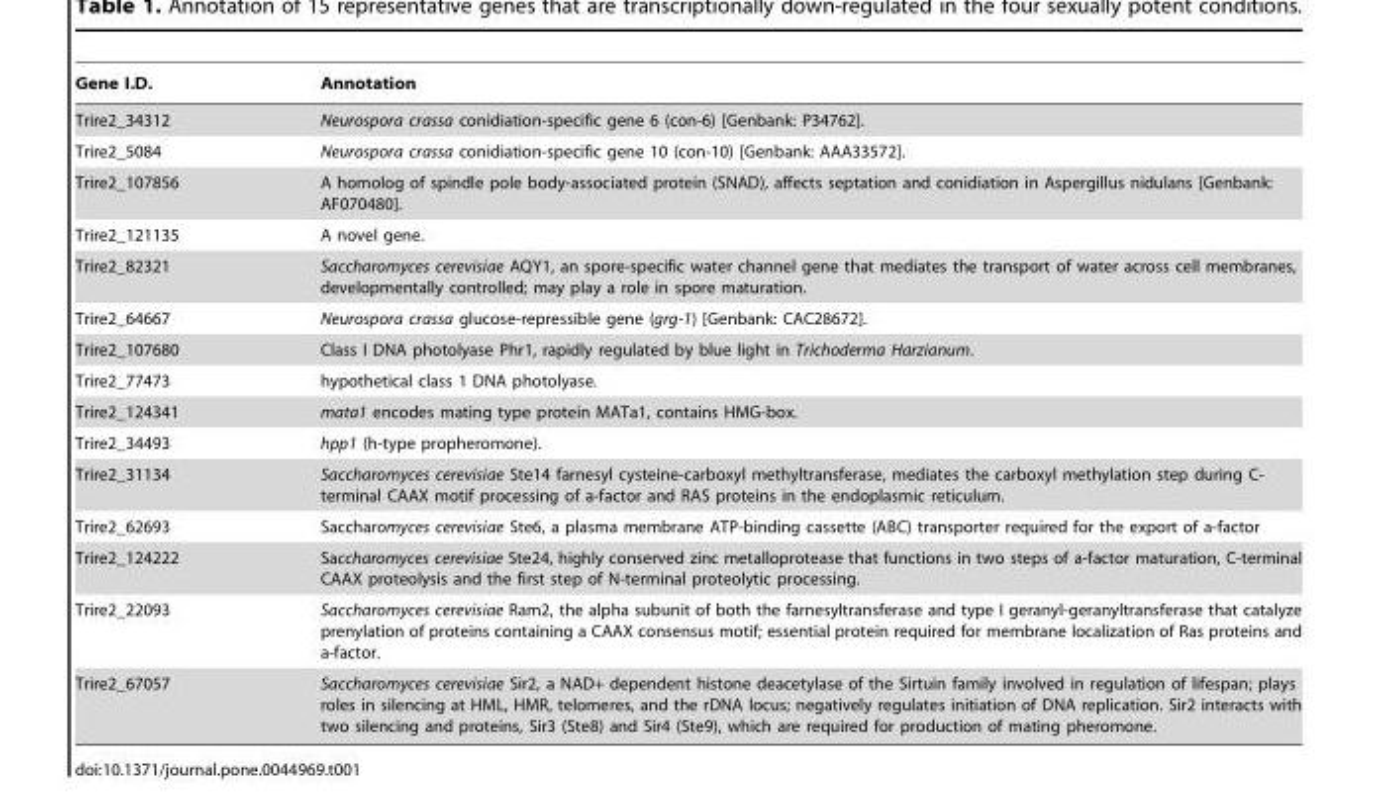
<table><thead><tr><td>Gene I.D.</td><td>Annotation</td></tr></thead><tbody><tr><td>Trire2_34312</td><td>Neurospora crassa conidiation-specific gene 6 (con-6) [Genbank: P34762].</td></tr><tr><td>Trire2_5084</td><td>Neurospora crassa conidiation-specific gene 10 (con-10) [Genbank: AAA33572].</td></tr><tr><td>Trire2_107856</td><td>A homolog of spindle pole body-associated protein (SNAD), affects septation and conidiation in Aspergillus nidulans [Genbank: AF070480].</td></tr><tr><td>Trire2_121135</td><td>A novel gene.</td></tr><tr><td>Trire2_82321</td><td>Saccharomyces cerevisiae AQY1, an spore-specific water channel gene that mediates the transport of water across cell membranes, developmentally controlled; may play a role in spore maturation.</td></tr><tr><td>Trire2_64667</td><td>Neurospora crassa glucose-repressible gene (grg-1) [Genbank: CAC28672].</td></tr><tr><td>Trire2_107680</td><td>Class I DNA photolyase Phr1, rapidly regulated by blue light in Trichoderma Harzianum.</td></tr><tr><td>Trire2_77473</td><td>hypothetical class 1 DNA photolyase.</td></tr><tr><td>Trire2_124341</td><td>mata1 encodes mating type protein MATa1, contains HMG-box.</td></tr><tr><td>Trire2_34493</td><td>hpp1 (h-type propheromone).</td></tr><tr><td>Trire2_31134</td><td>Saccharomyces cerevisiae Ste14 farnesyl cysteine-carboxyl methyltransferase, mediates the carboxyl methylation step during C- terminal CAAX motif processing of a-factor and RAS proteins in the endoplasmic reticulum.</td></tr><tr><td>Trire2_62693</td><td>Saccharomyces cerevisiae Ste6, a plasma membrane ATP-binding cassette (ABC) transporter required for the export of a-factor</td></tr><tr><td>Trire2_124222</td><td>Saccharomyces cerevisiae Ste24, highly conserved zinc metalloprotease that functions in two steps of a-factor maturation, C-terminal CAAX proteolysis and the first step of N-terminal proteolytic processing.</td></tr><tr><td>Trire2_22093</td><td>Saccharomyces cerevisiae Ram2, the alpha subunit of both the farnesyltransferase and type I geranyl-geranyltransferase that catalyze prenylation of proteins containing a CAAX consensus motif; essential protein required for membrane localization of Ras proteins and a-factor.</td></tr><tr><td>Trire2_67057</td><td>Saccharomyces cerevisiae Sir2, a NAD+ dependent histone deacetylase of the Sirtuin family involved in regulation of lifespan; plays roles in silencing at HML, HMR, telomeres, and the rDNA locus; negatively regulates initiation of DNA replication. Sir2 interacts with two silencing and proteins, Sir3 (Ste8) and Sir4 (Ste9), which are required for production of mating pheromone.</td></tr></tbody></table>